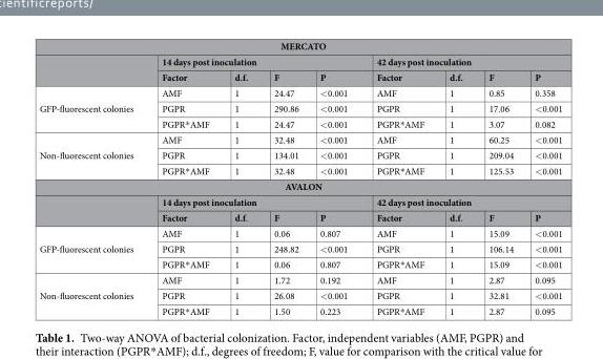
<table><thead><tr><td colspan="9">MERCATO</td></tr><tr><td rowspan="2"></td><td colspan="4">14 days post inoculation</td><td colspan="4">42 days post inoculation</td></tr><tr><td>Factor</td><td>d.f.</td><td>F</td><td>P</td><td>Factor</td><td>d.f.</td><td>F</td><td>P</td></tr></thead><tbody><tr><td rowspan="3">GFP-fluorescent colonies</td><td>AMF</td><td>1</td><td>24.47</td><td>&lt;0.001</td><td>AMF</td><td>1</td><td>0.85</td><td>0.358</td></tr><tr><td>PGPR</td><td>1</td><td>290.86</td><td>&lt;0.001</td><td>PGPR</td><td>1</td><td>17.06</td><td>&lt;0.001</td></tr><tr><td>PGPR*AMF</td><td>1</td><td>24.47</td><td>&lt;0.001</td><td>PGPR*AMF</td><td>1</td><td>3.07</td><td>0.082</td></tr><tr><td rowspan="3">Non-fluorescent colonies</td><td>AMF</td><td>1</td><td>32.48</td><td>&lt;0.001</td><td>AMF</td><td>1</td><td>60.25</td><td>&lt;0.001</td></tr><tr><td>PGPR</td><td>1</td><td>134.01</td><td>&lt;0.001</td><td>PGPR</td><td>1</td><td>209.04</td><td>&lt;0.001</td></tr><tr><td>PGPR*AMF</td><td>1</td><td>32.48</td><td>&lt;0.001</td><td>PGPR*AMF</td><td>1</td><td>125.53</td><td>&lt;0.001</td></tr><tr><td colspan="9">AVALON</td></tr><tr><td rowspan="2"></td><td colspan="4">14 days post inoculation</td><td colspan="4">42 days post inoculation</td></tr><tr><td>Factor</td><td>d.f.</td><td>F</td><td>P</td><td>Factor</td><td>d.f.</td><td>F</td><td>P</td></tr><tr><td rowspan="3">GFP-fluorescent colonies</td><td>AMF</td><td>1</td><td>0.06</td><td>0.807</td><td>AMF</td><td>1</td><td>15.09</td><td>&lt;0.001</td></tr><tr><td>PGPR</td><td>1</td><td>248.82</td><td>&lt;0.001</td><td>PGPR</td><td>1</td><td>106.14</td><td>&lt;0.001</td></tr><tr><td>PGPR*AMF</td><td>1</td><td>0.06</td><td>0.807</td><td>PGPR*AMF</td><td>1</td><td>15.09</td><td>&lt;0.001</td></tr><tr><td rowspan="3">Non-fluorescent colonies</td><td>AMF</td><td>1</td><td>1.72</td><td>0.192</td><td>AMF</td><td>1</td><td>2.87</td><td>0.095</td></tr><tr><td>PGPR</td><td>1</td><td>26.08</td><td>&lt;0.001</td><td>PGPR</td><td>1</td><td>32.81</td><td>&lt;0.001</td></tr><tr><td>PGPR*AMF</td><td>1</td><td>1.50</td><td>0.223</td><td>PGPR*AMF</td><td>1</td><td>2.87</td><td>0.095</td></tr></tbody></table>